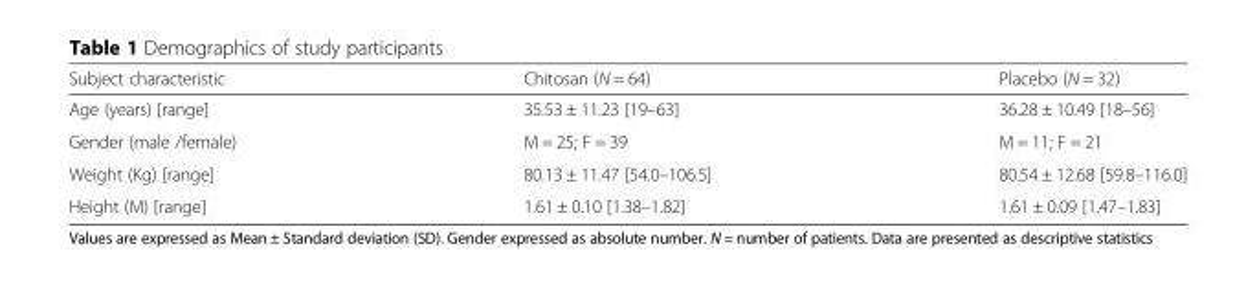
<table><thead><tr><td>Subject characteristic</td><td>Chitosan (N = 64)</td><td>Placebo (N = 32)</td></tr></thead><tbody><tr><td>Age (years) [range]</td><td>35.53 ± 11.23 [19–63]</td><td>36.28 ± 10.49 [18–56]</td></tr><tr><td>Gender (male /female)</td><td>M = 25; F = 39</td><td>M = 11; F = 21</td></tr><tr><td>Weight (Kg) [range]</td><td>80.13 ± 11.47 [54.0–106.5]</td><td>80.54 ± 12.68 [59.8–116.0]</td></tr><tr><td>Height (M) [range]</td><td>1.61 ± 0.10 [1.38–1.82]</td><td>1.61 ± 0.09 [1.47–1.83]</td></tr></tbody></table>